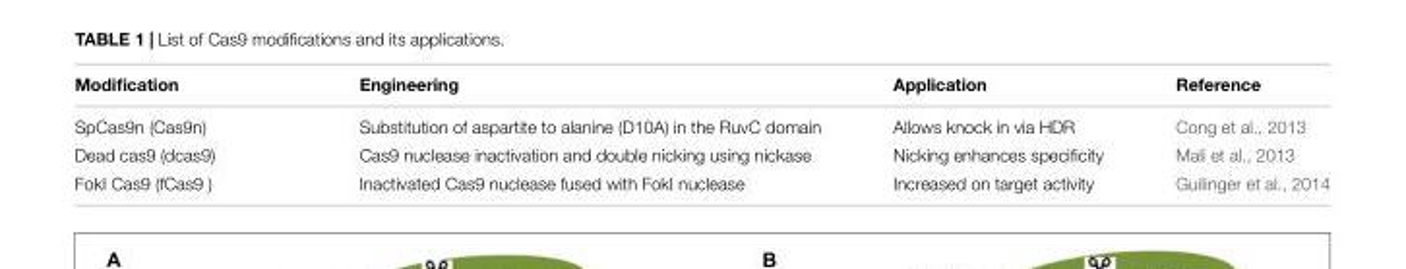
<table><thead><tr><td>Modification</td><td>Engineering</td><td>Application</td><td>Reference</td></tr></thead><tbody><tr><td>SpCas9n (Cas9n)</td><td>Substitution of aspartite to alanine (D10A) in the RuvC domain</td><td>Allows knock in via HDR</td><td>Cong et al., 2013</td></tr><tr><td>Dead cas9 (dcas9)</td><td>Cas9 nuclease inactivation and double nicking using nickase</td><td>Nicking enhances specificity</td><td>Mali et al., 2013</td></tr><tr><td>FokI Cas9 (fCas9 )</td><td>Inactivated Cas9 nuclease fused with FokI nuclease</td><td>Increased on target activity</td><td>Guilinger et al., 2014</td></tr></tbody></table>